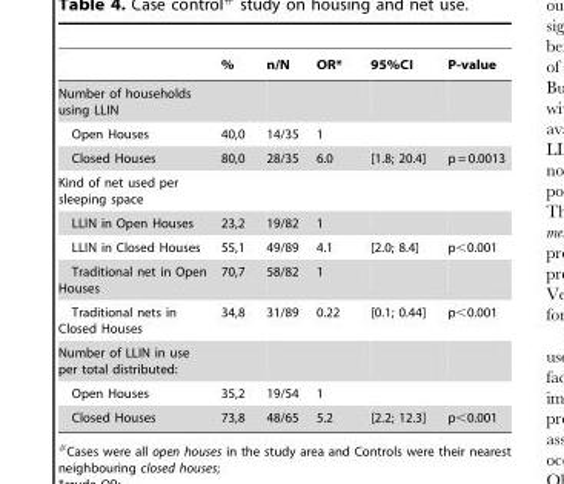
<table><thead><tr><td></td><td>%</td><td>n/N</td><td>OR*</td><td>95%CI</td><td>P-value</td></tr></thead><tbody><tr><td colspan="6">Number of households using LLIN</td></tr><tr><td>Open Houses</td><td>40,0</td><td>14/35</td><td>1</td><td></td><td></td></tr><tr><td>Closed Houses</td><td>80,0</td><td>28/35</td><td>6.0</td><td>[1.8; 20.4]</td><td>p = 0.0013</td></tr><tr><td colspan="6">Kind of net used per sleeping space</td></tr><tr><td>LLIN in Open Houses</td><td>23,2</td><td>19/82</td><td>1</td><td></td><td></td></tr><tr><td>LLIN in Closed Houses</td><td>55,1</td><td>49/89</td><td>4.1</td><td>[2.0; 8.4]</td><td>p&lt;0.001</td></tr><tr><td>Traditional net in Open Houses</td><td>70,7</td><td>58/82</td><td>1</td><td></td><td></td></tr><tr><td>Traditional nets in Closed Houses</td><td>34,8</td><td>31/89</td><td>0.22</td><td>[0.1; 0.44]</td><td>p&lt;0.001</td></tr><tr><td colspan="6">Number of LLIN in use per total distributed:</td></tr><tr><td>Open Houses</td><td>35,2</td><td>19/54</td><td>1</td><td></td><td></td></tr><tr><td>Closed Houses</td><td>73,8</td><td>48/65</td><td>5.2</td><td>[2.2; 12.3]</td><td>p&lt;0.001</td></tr></tbody></table>